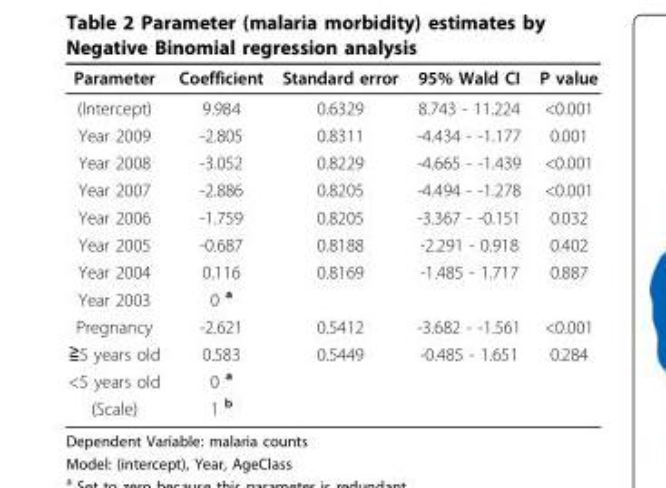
<table><thead><tr><td>Parameter</td><td>Coefficient</td><td>Standard error</td><td>95% Wald CI</td><td>P value</td></tr></thead><tbody><tr><td>(Intercept)</td><td>9.984</td><td>0.6329</td><td>8.743 - 11.224</td><td>&lt;0.001</td></tr><tr><td>Year 2009</td><td>-2.805</td><td>0.8311</td><td>-4.434 - -1.177</td><td>0.001</td></tr><tr><td>Year 2008</td><td>-3.052</td><td>0.8229</td><td>-4.665 - -1.439</td><td>&lt;0.001</td></tr><tr><td>Year 2007</td><td>-2.886</td><td>0.8205</td><td>-4.494 - -1.278</td><td>&lt;0.001</td></tr><tr><td>Year 2006</td><td>-1.759</td><td>0.8205</td><td>-3.367 - -0.151</td><td>0.032</td></tr><tr><td>Year 2005</td><td>-0.687</td><td>0.8188</td><td>-2.291 - 0.918</td><td>0.402</td></tr><tr><td>Year 2004</td><td>0.116</td><td>0.8169</td><td>-1.485 - 1.717</td><td>0.887</td></tr><tr><td>Year 2003</td><td>0 <sup>a</sup></td><td></td><td></td><td></td></tr><tr><td>Pregnancy</td><td>-2.621</td><td>0.5412</td><td>-3.682 - -1.561</td><td>&lt;0.001</td></tr><tr><td>≧5 years old</td><td>0.583</td><td>0.5449</td><td>-0.485 - 1.651</td><td>0.284</td></tr><tr><td>&lt;5 years old</td><td>0 <sup>a</sup></td><td></td><td></td><td></td></tr><tr><td>(Scale)</td><td>1 <sup>b</sup></td><td></td><td></td><td></td></tr></tbody></table>